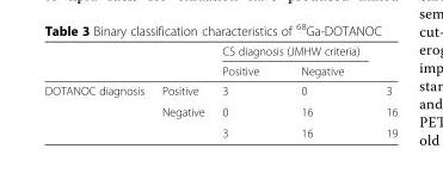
<table><thead><tr><td rowspan="2"></td><td rowspan="2"></td><td colspan="2">CS diagnosis (JMHW criteria)</td><td rowspan="2"></td></tr><tr><td>Positive</td><td>Negative</td></tr></thead><tbody><tr><td rowspan="3">DOTANOC diagnosis</td><td>Positive</td><td>3</td><td>0</td><td>3</td></tr><tr><td>Negative</td><td>0</td><td>16</td><td>16</td></tr><tr><td></td><td>3</td><td>16</td><td>19</td></tr></tbody></table>